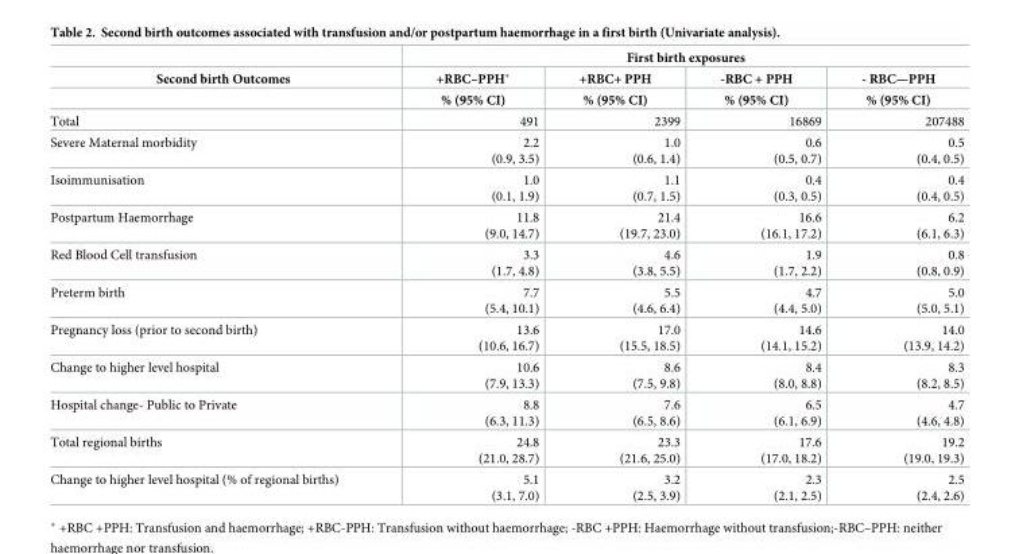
<table><thead><tr><td rowspan="3">Second birth Outcomes</td><td colspan="4">First birth exposures</td></tr><tr><td rowspan="2">+RBC–PPH* % (95% CI)</td><td rowspan="2">+RBC+ PPH % (95% CI)</td><td rowspan="2">-RBC + PPH % (95% CI)</td><td rowspan="2">- RBC—PPH % (95% CI)</td></tr><tr></tr></thead><tbody><tr><td>Total</td><td>491</td><td>2399</td><td>16869</td><td>207488</td></tr><tr><td>Severe Maternal morbidity</td><td>2.2 (0.9, 3.5)</td><td>1.0 (0.6, 1.4)</td><td>0.6 (0.5, 0.7)</td><td>0.5 (0.4, 0.5)</td></tr><tr><td>Isoimmunisation</td><td>1.0 (0.1, 1.9)</td><td>1.1 (0.7, 1.5)</td><td>0.4 (0.3, 0.5)</td><td>0.4 (0.4, 0.5)</td></tr><tr><td>Postpartum Haemorrhage</td><td>11.8 (9.0, 14.7)</td><td>21.4 (19.7, 23.0)</td><td>16.6 (16.1, 17.2)</td><td>6.2 (6.1, 6.3)</td></tr><tr><td>Red Blood Cell transfusion</td><td>3.3 (1.7, 4.8)</td><td>4.6 (3.8, 5.5)</td><td>1.9 (1.7, 2.2)</td><td>0.8 (0.8, 0.9)</td></tr><tr><td>Preterm birth</td><td>7.7 (5.4, 10.1)</td><td>5.5 (4.6, 6.4)</td><td>4.7 (4.4, 5.0)</td><td>5.0 (5.0, 5.1)</td></tr><tr><td>Pregnancy loss (prior to second birth)</td><td>13.6 (10.6, 16.7)</td><td>17.0 (15.5, 18.5)</td><td>14.6 (14.1, 15.2)</td><td>14.0 (13.9, 14.2)</td></tr><tr><td>Change to higher level hospital</td><td>10.6 (7.9, 13.3)</td><td>8.6 (7.5, 9.8)</td><td>8.4 (8.0, 8.8)</td><td>8.3 (8.2, 8.5)</td></tr><tr><td>Hospital change- Public to Private</td><td>8.8 (6.3, 11.3)</td><td>7.6 (6.5, 8.6)</td><td>6.5 (6.1, 6.9)</td><td>4.7 (4.6, 4.8)</td></tr><tr><td>Total regional births</td><td>24.8 (21.0, 28.7)</td><td>23.3 (21.6, 25.0)</td><td>17.6 (17.0, 18.2)</td><td>19.2 (19.0, 19.3)</td></tr><tr><td>Change to higher level hospital (% of regional births)</td><td>5.1 (3.1, 7.0)</td><td>3.2 (2.5, 3.9)</td><td>2.3 (2.1, 2.5)</td><td>2.5 (2.4, 2.6)</td></tr></tbody></table>